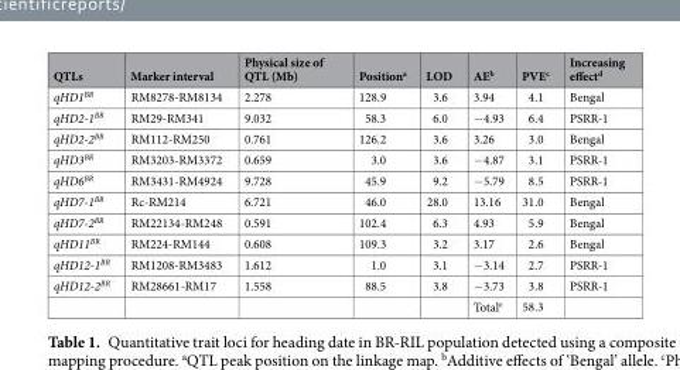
<table><thead><tr><td>QTLs</td><td>Marker interval</td><td>Physical size of QTL (Mb)</td><td>Position<sup>a</sup></td><td>LOD</td><td>AE<sup>b</sup></td><td>PVE<sup>c</sup></td><td>Increasing effect<sup>d</sup></td></tr></thead><tbody><tr><td>qHD1<sup>BR</sup></td><td>RM8278-RM8134</td><td>2.278</td><td>128.9</td><td>3.6</td><td>3.94</td><td>4.1</td><td>Bengal</td></tr><tr><td>qHD2-1<sup>BR</sup></td><td>RM29-RM341</td><td>9.032</td><td>58.3</td><td>6.0</td><td>−4.93</td><td>6.4</td><td>PSRR-1</td></tr><tr><td>qHD2-2<sup>BR</sup></td><td>RM112-RM250</td><td>0.761</td><td>126.2</td><td>3.6</td><td>3.26</td><td>3.0</td><td>Bengal</td></tr><tr><td>qHD3<sup>BR</sup></td><td>RM3203-RM3372</td><td>0.659</td><td>3.0</td><td>3.6</td><td>−4.87</td><td>3.1</td><td>PSRR-1</td></tr><tr><td>qHD6<sup>BR</sup></td><td>RM3431-RM4924</td><td>9.728</td><td>45.9</td><td>9.2</td><td>−5.79</td><td>8.5</td><td>PSRR-1</td></tr><tr><td>qHD7-1<sup>BR</sup></td><td>Rc-RM214</td><td>6.721</td><td>46.0</td><td>28.0</td><td>13.16</td><td>31.0</td><td>Bengal</td></tr><tr><td>qHD7-2<sup>BR</sup></td><td>RM22134-RM248</td><td>0.591</td><td>102.4</td><td>6.3</td><td>4.93</td><td>5.9</td><td>Bengal</td></tr><tr><td>qHD11<sup>BR</sup></td><td>RM224-RM144</td><td>0.608</td><td>109.3</td><td>3.2</td><td>3.17</td><td>2.6</td><td>Bengal</td></tr><tr><td>qHD12-1<sup>BR</sup></td><td>RM1208-RM3483</td><td>1.612</td><td>1.0</td><td>3.1</td><td>−3.14</td><td>2.7</td><td>PSRR-1</td></tr><tr><td rowspan="2">qHD12-2<sup>BR</sup></td><td>RM28661-RM17</td><td>1.558</td><td>88.5</td><td>3.8</td><td>−3.73</td><td>3.8</td><td>PSRR-1</td></tr><tr><td></td><td></td><td></td><td></td><td>Total<sup>e</sup></td><td>58.3</td><td></td></tr></tbody></table>